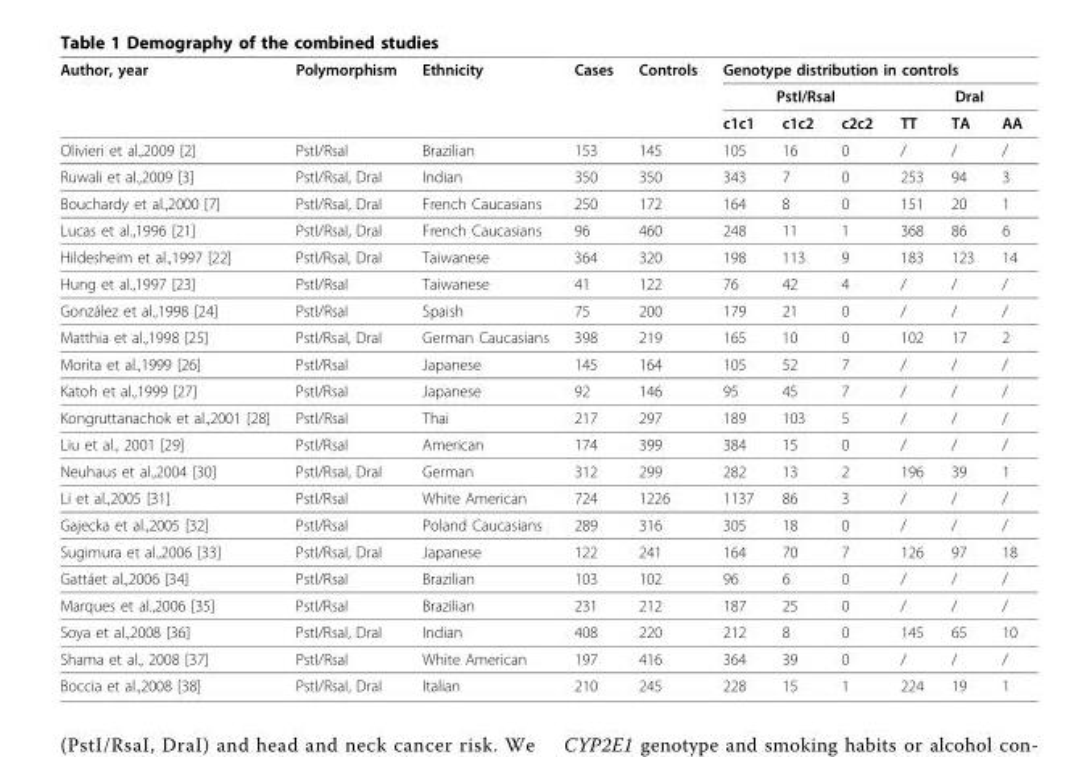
<table><thead><tr><td rowspan="3">Author, year</td><td rowspan="3">Polymorphism</td><td rowspan="3">Ethnicity</td><td rowspan="3">Cases</td><td rowspan="3">Controls</td><td colspan="6">Genotype distribution in controls</td></tr><tr><td colspan="3">PstI/RsaI</td><td colspan="3">DraI</td></tr><tr><td>c1c1</td><td>c1c2</td><td>c2c2</td><td>TT</td><td>TA</td><td>AA</td></tr></thead><tbody><tr><td>Olivieri et al.,2009 [2]</td><td>PstI/RsaI</td><td>Brazilian</td><td>153</td><td>145</td><td>105</td><td>16</td><td>0</td><td>/</td><td>/</td><td>/</td></tr><tr><td>Ruwali et al.,2009 [3]</td><td>PstI/RsaI, DraI</td><td>Indian</td><td>350</td><td>350</td><td>343</td><td>7</td><td>0</td><td>253</td><td>94</td><td>3</td></tr><tr><td>Bouchardy et al.,2000 [7]</td><td>PstI/RsaI, DraI</td><td>French Caucasians</td><td>250</td><td>172</td><td>164</td><td>8</td><td>0</td><td>151</td><td>20</td><td>1</td></tr><tr><td>Lucas et al.,1996 [21]</td><td>PstI/RsaI, DraI</td><td>French Caucasians</td><td>96</td><td>460</td><td>248</td><td>11</td><td>1</td><td>368</td><td>86</td><td>6</td></tr><tr><td>Hildesheim et al.,1997 [22]</td><td>PstI/RsaI, DraI</td><td>Taiwanese</td><td>364</td><td>320</td><td>198</td><td>113</td><td>9</td><td>183</td><td>123</td><td>14</td></tr><tr><td>Hung et al.,1997 [23]</td><td>PstI/RsaI</td><td>Taiwanese</td><td>41</td><td>122</td><td>76</td><td>42</td><td>4</td><td>/</td><td>/</td><td>/</td></tr><tr><td>González et al.,1998 [24]</td><td>PstI/RsaI</td><td>Spaish</td><td>75</td><td>200</td><td>179</td><td>21</td><td>0</td><td>/</td><td>/</td><td>/</td></tr><tr><td>Matthia et al.,1998 [25]</td><td>PstI/RsaI, DraI</td><td>German Caucasians</td><td>398</td><td>219</td><td>165</td><td>10</td><td>0</td><td>102</td><td>17</td><td>2</td></tr><tr><td>Morita et al.,1999 [26]</td><td>PstI/RsaI</td><td>Japanese</td><td>145</td><td>164</td><td>105</td><td>52</td><td>7</td><td>/</td><td>/</td><td>/</td></tr><tr><td>Katoh et al.,1999 [27]</td><td>PstI/RsaI</td><td>Japanese</td><td>92</td><td>146</td><td>95</td><td>45</td><td>7</td><td>/</td><td>/</td><td>/</td></tr><tr><td>Kongruttanachok et al.,2001 [28]</td><td>PstI/RsaI</td><td>Thai</td><td>217</td><td>297</td><td>189</td><td>103</td><td>5</td><td>/</td><td>/</td><td>/</td></tr><tr><td>Liu et al., 2001 [29]</td><td>PstI/RsaI</td><td>American</td><td>174</td><td>399</td><td>384</td><td>15</td><td>0</td><td>/</td><td>/</td><td>/</td></tr><tr><td>Neuhaus et al.,2004 [30]</td><td>PstI/RsaI, DraI</td><td>German</td><td>312</td><td>299</td><td>282</td><td>13</td><td>2</td><td>196</td><td>39</td><td>1</td></tr><tr><td>Li et al.,2005 [31]</td><td>PstI/RsaI</td><td>White American</td><td>724</td><td>1226</td><td>1137</td><td>86</td><td>3</td><td>/</td><td>/</td><td>/</td></tr><tr><td>Gajecka et al.,2005 [32]</td><td>PstI/RsaI</td><td>Poland Caucasians</td><td>289</td><td>316</td><td>305</td><td>18</td><td>0</td><td>/</td><td>/</td><td>/</td></tr><tr><td>Sugimura et al.,2006 [33]</td><td>PstI/RsaI, DraI</td><td>Japanese</td><td>122</td><td>241</td><td>164</td><td>70</td><td>7</td><td>126</td><td>97</td><td>18</td></tr><tr><td>Gattáet al.,2006 [34]</td><td>PstI/RsaI</td><td>Brazilian</td><td>103</td><td>102</td><td>96</td><td>6</td><td>0</td><td>/</td><td>/</td><td>/</td></tr><tr><td>Marques et al.,2006 [35]</td><td>PstI/RsaI</td><td>Brazilian</td><td>231</td><td>212</td><td>187</td><td>25</td><td>0</td><td>/</td><td>/</td><td>/</td></tr><tr><td>Soya et al.,2008 [36]</td><td>PstI/RsaI, DraI</td><td>Indian</td><td>408</td><td>220</td><td>212</td><td>8</td><td>0</td><td>145</td><td>65</td><td>10</td></tr><tr><td>Shama et al., 2008 [37]</td><td>PstI/RsaI</td><td>White American</td><td>197</td><td>416</td><td>364</td><td>39</td><td>0</td><td>/</td><td>/</td><td>/</td></tr><tr><td>Boccia et al.,2008 [38]</td><td>PstI/RsaI, DraI</td><td>Italian</td><td>210</td><td>245</td><td>228</td><td>15</td><td>1</td><td>224</td><td>19</td><td>1</td></tr></tbody></table>